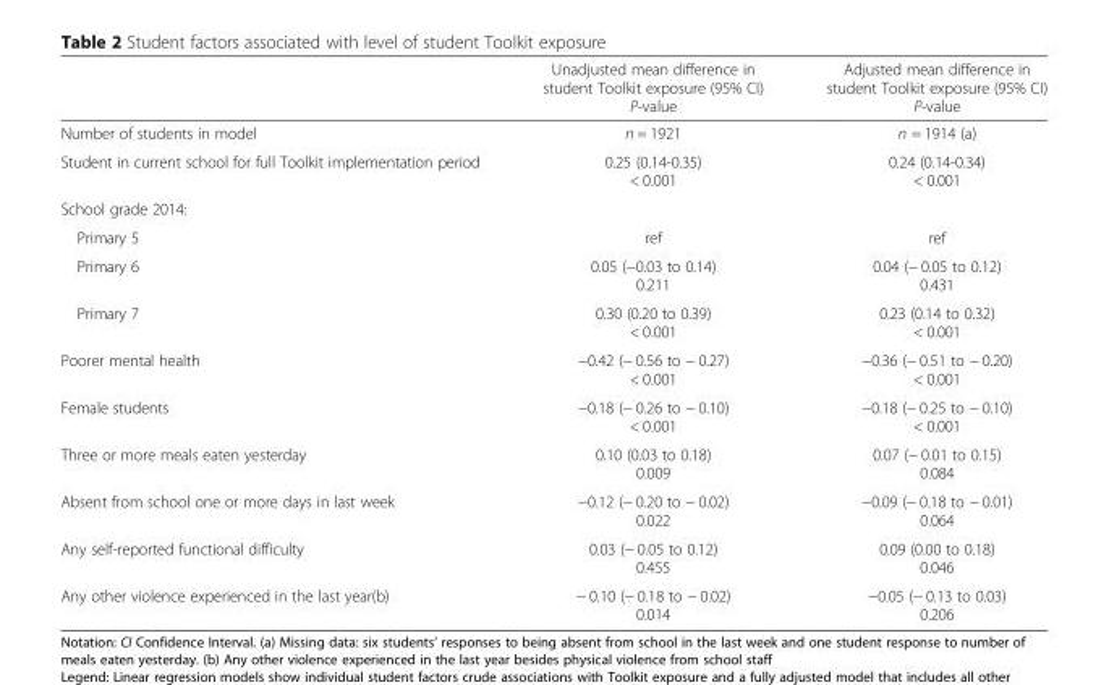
<table><thead><tr><td></td><td>Unadjusted mean difference in student Toolkit exposure (95% CI) P-value</td><td>Adjusted mean difference in student Toolkit exposure (95% CI) P-value</td></tr></thead><tbody><tr><td>Number of students in model</td><td>n = 1921</td><td>n = 1914 (a)</td></tr><tr><td>Student in current school for full Toolkit implementation period</td><td>0.25 (0.14-0.35) &lt; 0.001</td><td>0.24 (0.14-0.34) &lt; 0.001</td></tr><tr><td colspan="3">School grade 2014:</td></tr><tr><td>Primary 5</td><td>ref</td><td>ref</td></tr><tr><td>Primary 6</td><td>0.05 (−0.03 to 0.14) 0.211</td><td>0.04 (− 0.05 to 0.12) 0.431</td></tr><tr><td>Primary 7</td><td>0.30 (0.20 to 0.39) &lt; 0.001</td><td>0.23 (0.14 to 0.32) &lt; 0.001</td></tr><tr><td>Poorer mental health</td><td>−0.42 (− 0.56 to − 0.27) &lt; 0.001</td><td>−0.36 (− 0.51 to − 0.20) &lt; 0.001</td></tr><tr><td>Female students</td><td>−0.18 (− 0.26 to − 0.10) &lt; 0.001</td><td>−0.18 (− 0.25 to − 0.10) &lt; 0.001</td></tr><tr><td>Three or more meals eaten yesterday</td><td>0.10 (0.03 to 0.18) 0.009</td><td>0.07 (− 0.01 to 0.15) 0.084</td></tr><tr><td>Absent from school one or more days in last week</td><td>−0.12 (− 0.20 to − 0.02) 0.022</td><td>−0.09 (− 0.18 to − 0.01) 0.064</td></tr><tr><td>Any self-reported functional difficulty</td><td>0.03 (− 0.05 to 0.12) 0.455</td><td>0.09 (0.00 to 0.18) 0.046</td></tr><tr><td>Any other violence experienced in the last year(b)</td><td>− 0.10 (− 0.18 to − 0.02) 0.014</td><td>−0.05 (− 0.13 to 0.03) 0.206</td></tr></tbody></table>